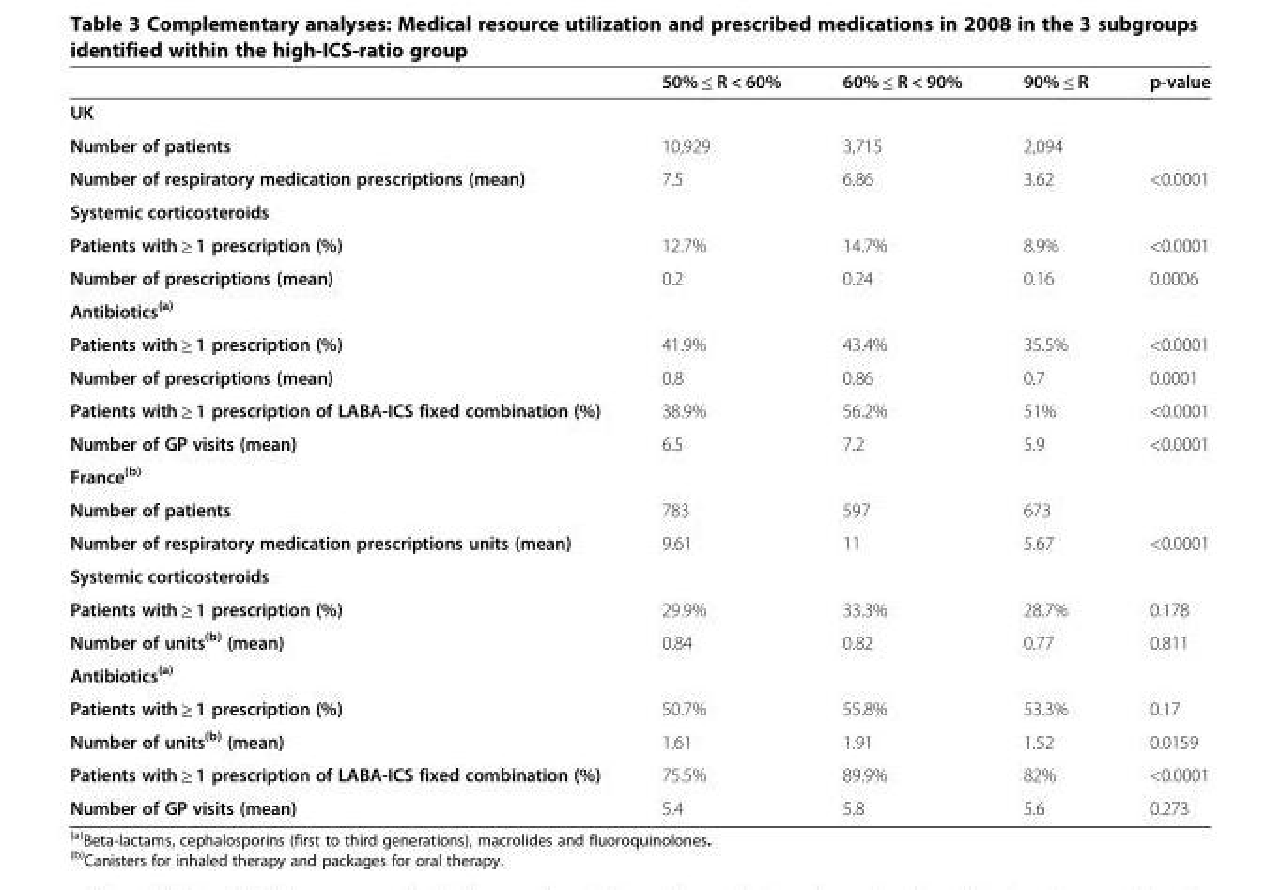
<table><thead><tr><td></td><td>50% ≤ R &lt; 60%</td><td>60% ≤ R &lt; 90%</td><td>90% ≤ R</td><td>p-value</td></tr></thead><tbody><tr><td colspan="5">UK</td></tr><tr><td>Number of patients</td><td>10,929</td><td>3,715</td><td>2,094</td><td></td></tr><tr><td>Number of respiratory medication prescriptions (mean)</td><td>7.5</td><td>6.86</td><td>3.62</td><td>&lt;0.0001</td></tr><tr><td colspan="5">Systemic corticosteroids</td></tr><tr><td>Patients with ≥ 1 prescription (%)</td><td>12.7%</td><td>14.7%</td><td>8.9%</td><td>&lt;0.0001</td></tr><tr><td>Number of prescriptions (mean)</td><td>0.2</td><td>0.24</td><td>0.16</td><td>0.0006</td></tr><tr><td colspan="5">Antibiotics<sup>(a)</sup></td></tr><tr><td>Patients with ≥ 1 prescription (%)</td><td>41.9%</td><td>43.4%</td><td>35.5%</td><td>&lt;0.0001</td></tr><tr><td>Number of prescriptions (mean)</td><td>0.8</td><td>0.86</td><td>0.7</td><td>0.0001</td></tr><tr><td>Patients with ≥ 1 prescription of LABA-ICS fixed combination (%)</td><td>38.9%</td><td>56.2%</td><td>51%</td><td>&lt;0.0001</td></tr><tr><td>Number of GP visits (mean)</td><td>6.5</td><td>7.2</td><td>5.9</td><td>&lt;0.0001</td></tr><tr><td colspan="5">France<sup>(b)</sup></td></tr><tr><td>Number of patients</td><td>783</td><td>597</td><td>673</td><td></td></tr><tr><td>Number of respiratory medication prescriptions units (mean)</td><td>9.61</td><td>11</td><td>5.67</td><td>&lt;0.0001</td></tr><tr><td colspan="5">Systemic corticosteroids</td></tr><tr><td>Patients with ≥ 1 prescription (%)</td><td>29.9%</td><td>33.3%</td><td>28.7%</td><td>0.178</td></tr><tr><td>Number of units<sup>(b)</sup> (mean)</td><td>0.84</td><td>0.82</td><td>0.77</td><td>0.811</td></tr><tr><td colspan="5">Antibiotics<sup>(a)</sup></td></tr><tr><td>Patients with ≥ 1 prescription (%)</td><td>50.7%</td><td>55.8%</td><td>53.3%</td><td>0.17</td></tr><tr><td>Number of units<sup>(b)</sup> (mean)</td><td>1.61</td><td>1.91</td><td>1.52</td><td>0.0159</td></tr><tr><td>Patients with ≥ 1 prescription of LABA-ICS fixed combination (%)</td><td>75.5%</td><td>89.9%</td><td>82%</td><td>&lt;0.0001</td></tr><tr><td>Number of GP visits (mean)</td><td>5.4</td><td>5.8</td><td>5.6</td><td>0.273</td></tr></tbody></table>